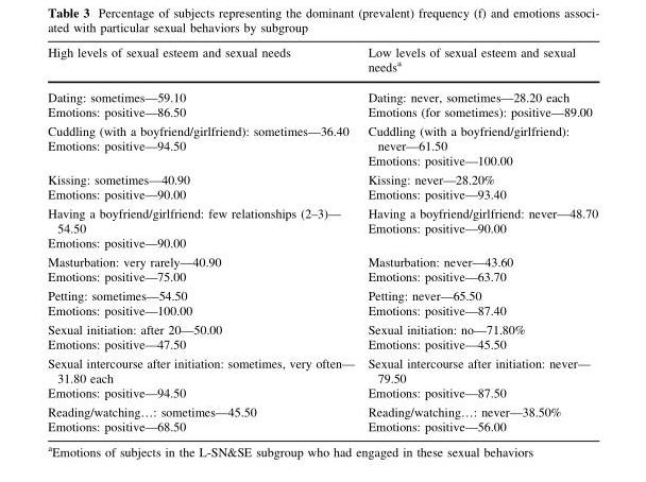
<table><thead><tr><td>High levels of sexual esteem and sexual needs</td><td>Low levels of sexual esteem and sexual needs<sup>a</sup></td></tr></thead><tbody><tr><td>Dating: sometimes—59.10 Emotions: positive—86.50</td><td>Dating: never, sometimes—28.20 each Emotions (for sometimes): positive—89.00</td></tr><tr><td>Cuddling (with a boyfriend/girlfriend): sometimes—36.40 Emotions: positive—94.50</td><td>Cuddling (with a boyfriend/girlfriend): never—61.50 Emotions: positive—100.00</td></tr><tr><td>Kissing: sometimes—40.90 Emotions: positive—90.00</td><td>Kissing: never—28.20% Emotions: positive—93.40</td></tr><tr><td>Having a boyfriend/girlfriend: few relationships (2–3)— 54.50 Emotions: positive—90.00</td><td>Having a boyfriend/girlfriend: never—48.70 Emotions: positive—90.00</td></tr><tr><td>Masturbation: very rarely—40.90 Emotions: positive—75.00</td><td>Masturbation: never—43.60 Emotions: positive—63.70</td></tr><tr><td>Petting: sometimes—54.50 Emotions: positive—100.00</td><td>Petting: never—65.50 Emotions: positive—87.40</td></tr><tr><td>Sexual initiation: after 20—50.00 Emotions: positive—47.50</td><td>Sexual initiation: no—71.80% Emotions: positive—45.50</td></tr><tr><td>Sexual intercourse after initiation: sometimes, very often— 31.80 each Emotions: positive—94.50</td><td>Sexual intercourse after initiation: never— 79.50 Emotions: positive—87.50</td></tr><tr><td>Reading/watching…: sometimes—45.50 Emotions: positive—68.50</td><td>Reading/watching…: never—38.50% Emotions: positive—56.00</td></tr></tbody></table>